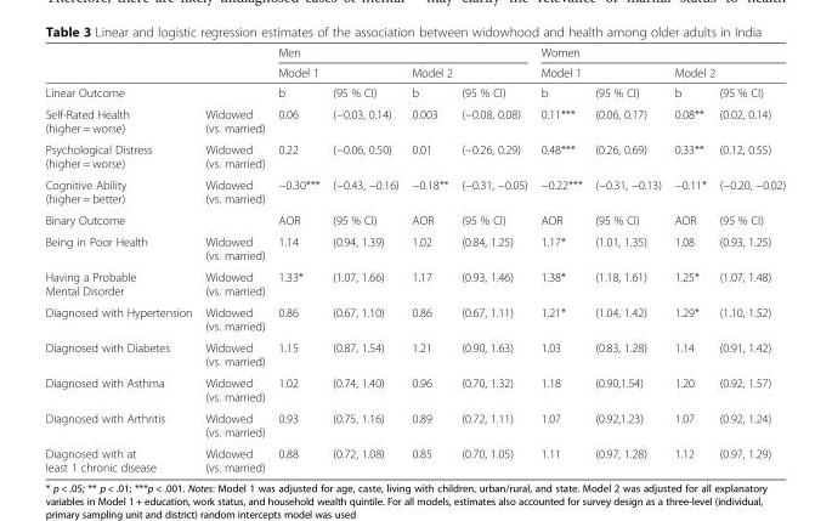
<table><thead><tr><td rowspan="3">Linear Outcome</td><td rowspan="3"></td><td colspan="4">Men</td><td colspan="4">Women</td></tr><tr><td colspan="2">Model 1</td><td colspan="2">Model 2</td><td colspan="2">Model 1</td><td colspan="2">Model 2</td></tr><tr><td>b</td><td>(95 % CI)</td><td>b</td><td>(95 % CI)</td><td>b</td><td>(95 % CI)</td><td>b</td><td>(95 % CI)</td></tr></thead><tbody><tr><td>Self-Rated Health (higher = worse)</td><td>Widowed (vs. married)</td><td>0.06</td><td>(−0.03, 0.14)</td><td>0.003</td><td>(−0.08, 0.08)</td><td>0.11***</td><td>(0.06, 0.17)</td><td>0.08**</td><td>(0.02, 0.14)</td></tr><tr><td>Psychological Distress (higher = worse)</td><td>Widowed (vs. married)</td><td>0.22</td><td>(−0.06, 0.50)</td><td>0.01</td><td>(−0.26, 0.29)</td><td>0.48***</td><td>(0.26, 0.69)</td><td>0.33**</td><td>(0.12, 0.55)</td></tr><tr><td>Cognitive Ability (higher = better)</td><td>Widowed (vs. married)</td><td>−0.30***</td><td>(−0.43, −0.16)</td><td>−0.18**</td><td>(−0.31, −0.05)</td><td>−0.22***</td><td>(−0.31, −0.13)</td><td>−0.11*</td><td>(−0.20, −0.02)</td></tr><tr><td>Binary Outcome</td><td></td><td>AOR</td><td>(95 % CI)</td><td>AOR</td><td>(95 % CI)</td><td>AOR</td><td>(95 % CI)</td><td>AOR</td><td>(95 % CI)</td></tr><tr><td>Being in Poor Health</td><td>Widowed (vs. married)</td><td>1.14</td><td>(0.94, 1.39)</td><td>1.02</td><td>(0.84, 1.25)</td><td>1.17*</td><td>(1.01, 1.35)</td><td>1.08</td><td>(0.93, 1.25)</td></tr><tr><td>Having a Probable Mental Disorder</td><td>Widowed (vs. married)</td><td>1.33*</td><td>(1.07, 1.66)</td><td>1.17</td><td>(0.93, 1.46)</td><td>1.38*</td><td>(1.18, 1.61)</td><td>1.25*</td><td>(1.07, 1.48)</td></tr><tr><td>Diagnosed with Hypertension</td><td>Widowed (vs. married)</td><td>0.86</td><td>(0.67, 1.10)</td><td>0.86</td><td>(0.67, 1.11)</td><td>1.21*</td><td>(1.04, 1.42)</td><td>1.29*</td><td>(1.10, 1.52)</td></tr><tr><td>Diagnosed with Diabetes</td><td>Widowed (vs. married)</td><td>1.15</td><td>(0.87, 1.54)</td><td>1.21</td><td>(0.90, 1.63)</td><td>1.03</td><td>(0.83, 1.28)</td><td>1.14</td><td>(0.91, 1.42)</td></tr><tr><td>Diagnosed with Asthma</td><td>Widowed (vs. married)</td><td>1.02</td><td>(0.74, 1.40)</td><td>0.96</td><td>(0.70, 1.32)</td><td>1.18</td><td>(0.90,1.54)</td><td>1.20</td><td>(0.92, 1.57)</td></tr><tr><td>Diagnosed with Arthritis</td><td>Widowed (vs. married)</td><td>0.93</td><td>(0.75, 1.16)</td><td>0.89</td><td>(0.72, 1.11)</td><td>1.07</td><td>(0.92,1.23)</td><td>1.07</td><td>(0.92, 1.24)</td></tr><tr><td>Diagnosed with at least 1 chronic disease</td><td>Widowed (vs. married)</td><td>0.88</td><td>(0.72, 1.08)</td><td>0.85</td><td>(0.70, 1.05)</td><td>1.11</td><td>(0.97, 1.28)</td><td>1.12</td><td>(0.97, 1.29)</td></tr></tbody></table>